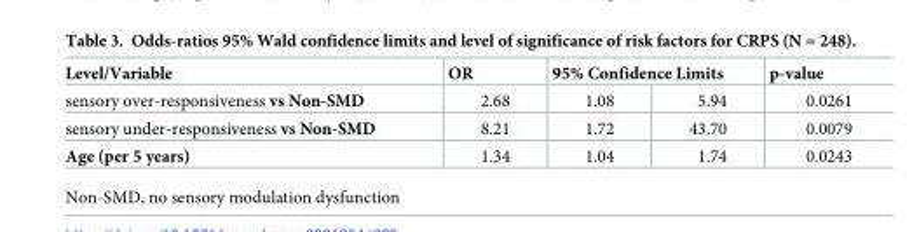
<table><thead><tr><td rowspan="2">Level/Variable sensory over-responsiveness vs Non-SMD</td><td rowspan="2">OR 2.68</td><td colspan="2">95% Confidence Limits</td><td rowspan="2">p-value 0.0261</td></tr><tr><td>1.08</td><td>5.94</td></tr></thead><tbody><tr><td>sensory under-responsiveness vs Non-SMD</td><td>8.21</td><td>1.72</td><td>43.70</td><td>0.0079</td></tr><tr><td>Age (per 5 years)</td><td>1.34</td><td>1.04</td><td>1.74</td><td>0.0243</td></tr></tbody></table>